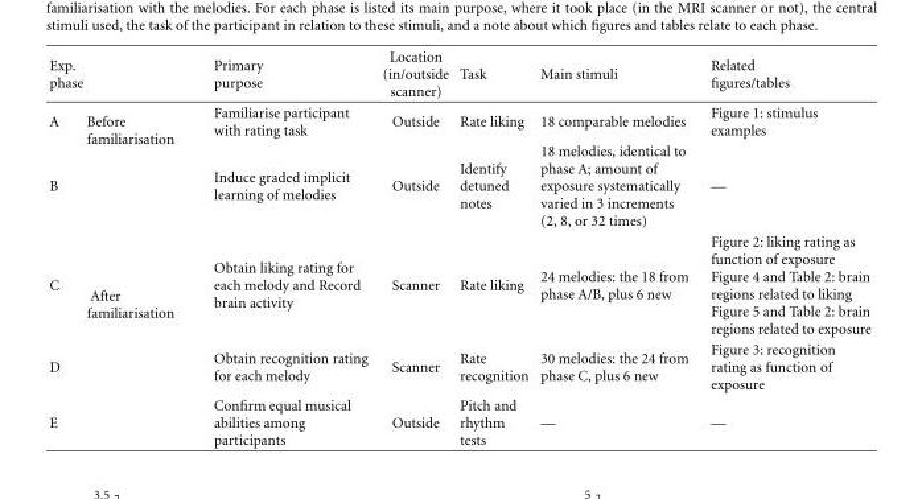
<table><thead><tr><td>Exp. phase</td><td></td><td>Primary purpose</td><td>Location (in/outside scanner)</td><td>Task</td><td>Main stimuli</td><td>Related figures/tables</td></tr></thead><tbody><tr><td>A</td><td rowspan="2">Before familiarisation</td><td>Familiarise participant with rating task</td><td>Outside</td><td>Rate liking</td><td>18 comparable melodies</td><td>Figure 1: stimulus examples</td></tr><tr><td>B</td><td>Induce graded implicit learning of melodies</td><td>Outside</td><td>Identify detuned notes</td><td>18 melodies, identical to phase A; amount of exposure systematically varied in 3 increments (2, 8, or 32 times)</td><td>—</td></tr><tr><td>C</td><td rowspan="3">After familiarisation</td><td>Obtain liking rating for each melody and Record brain activity</td><td>Scanner</td><td>Rate liking</td><td>24 melodies: the 18 from phase A/B, plus 6 new</td><td>Figure 2: liking rating as function of exposure Figure 4 and Table 2: brain regions related to liking Figure 5 and Table 2: brain regions related to exposure</td></tr><tr><td>D</td><td>Obtain recognition rating for each melody</td><td>Scanner</td><td>Rate recognition</td><td>30 melodies: the 24 from phase C, plus 6 new</td><td>Figure 3: recognition rating as function of exposure</td></tr><tr><td>E</td><td>Confirm equal musical abilities among participants</td><td>Outside</td><td>Pitch and rhythm tests</td><td>—</td><td>—</td></tr></tbody></table>